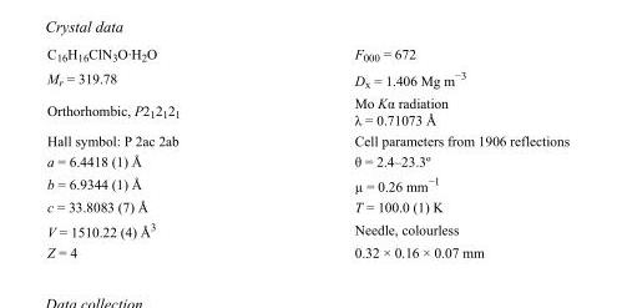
<table><tbody><tr><td>C<sub>16</sub>H<sub>16</sub>ClN<sub>3</sub>O·H<sub>2</sub>O</td><td>F<sub>000</sub> = 672</td></tr><tr><td>M<sub>r</sub> = 319.78</td><td>D<sub>x</sub> = 1.406 Mg m<sup>−3</sup></td></tr><tr><td>Orthorhombic, P2<sub>1</sub>2<sub>1</sub>2<sub>1</sub></td><td>Mo Kα radiation λ = 0.71073 Å</td></tr><tr><td>Hall symbol: P 2ac 2ab</td><td>Cell parameters from 1906 reflections</td></tr><tr><td>a = 6.4418 (1) Å</td><td>θ = 2.4–23.3º</td></tr><tr><td>b = 6.9344 (1) Å</td><td>µ = 0.26 mm<sup>−1</sup></td></tr><tr><td>c = 33.8083 (7) Å</td><td>T = 100.0 (1) K</td></tr><tr><td>V = 1510.22 (4) Å<sup>3</sup></td><td>Needle, colourless</td></tr><tr><td>Z = 4</td><td>0.32 × 0.16 × 0.07 mm</td></tr></tbody></table>